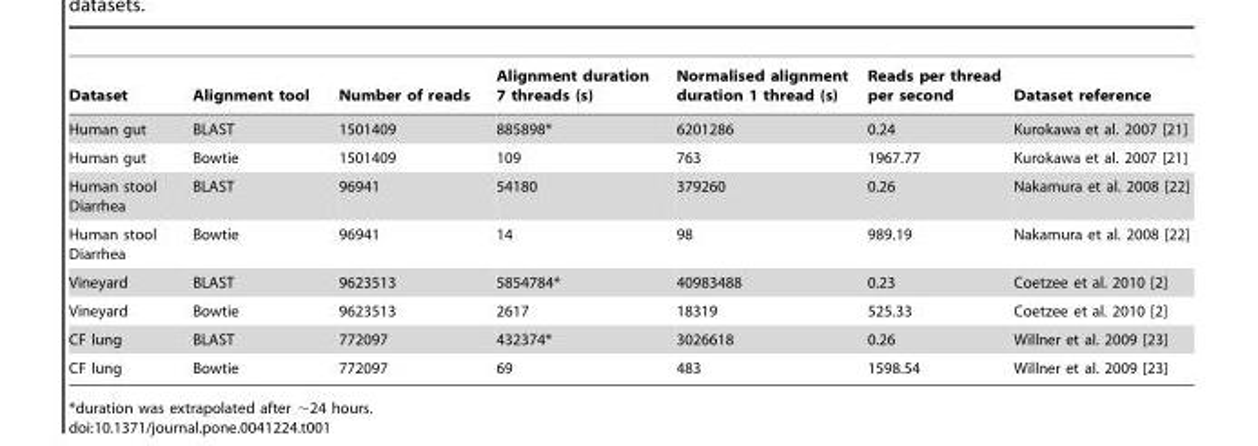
<table><thead><tr><td>Dataset</td><td>Alignment tool</td><td>Number of reads</td><td>Alignment duration 7 threads (s)</td><td>Normalised alignment duration 1 thread (s)</td><td>Reads per thread per second</td><td>Dataset reference</td></tr></thead><tbody><tr><td>Human gut</td><td>BLAST</td><td>1501409</td><td>885898*</td><td>6201286</td><td>0.24</td><td>Kurokawa et al. 2007 [21]</td></tr><tr><td>Human gut</td><td>Bowtie</td><td>1501409</td><td>109</td><td>763</td><td>1967.77</td><td>Kurokawa et al. 2007 [21]</td></tr><tr><td>Human stool Diarrhea</td><td>BLAST</td><td>96941</td><td>54180</td><td>379260</td><td>0.26</td><td>Nakamura et al. 2008 [22]</td></tr><tr><td>Human stool Diarrhea</td><td>Bowtie</td><td>96941</td><td>14</td><td>98</td><td>989.19</td><td>Nakamura et al. 2008 [22]</td></tr><tr><td>Vineyard</td><td>BLAST</td><td>9623513</td><td>5854784*</td><td>40983488</td><td>0.23</td><td>Coetzee et al. 2010 [2]</td></tr><tr><td>Vineyard</td><td>Bowtie</td><td>9623513</td><td>2617</td><td>18319</td><td>525.33</td><td>Coetzee et al. 2010 [2]</td></tr><tr><td>CF lung</td><td>BLAST</td><td>772097</td><td>432374*</td><td>3026618</td><td>0.26</td><td>Willner et al. 2009 [23]</td></tr><tr><td>CF lung</td><td>Bowtie</td><td>772097</td><td>69</td><td>483</td><td>1598.54</td><td>Willner et al. 2009 [23]</td></tr></tbody></table>